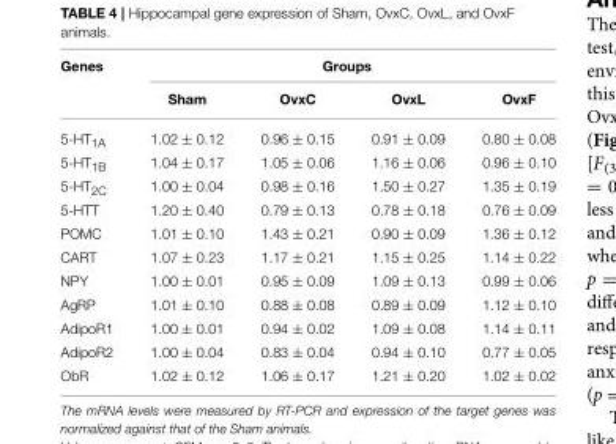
<table><thead><tr><td rowspan="2">Genes</td><td colspan="4">Groups</td></tr><tr><td>Sham</td><td>OvxC</td><td>OvxL</td><td>OvxF</td></tr></thead><tbody><tr><td>5-HT<sub>1A</sub></td><td>1.02 ± 0.12</td><td>0.96 ± 0.15</td><td>0.91 ± 0.09</td><td>0.80 ± 0.08</td></tr><tr><td>5-HT<sub>1B</sub></td><td>1.04 ± 0.17</td><td>1.05 ± 0.06</td><td>1.16 ± 0.06</td><td>0.96 ± 0.10</td></tr><tr><td>5-HT<sub>2C</sub></td><td>1.00 ± 0.04</td><td>0.98 ± 0.16</td><td>1.50 ± 0.27</td><td>1.35 ± 0.19</td></tr><tr><td>5-HTT</td><td>1.20 ± 0.40</td><td>0.79 ± 0.13</td><td>0.78 ± 0.18</td><td>0.76 ± 0.09</td></tr><tr><td>POMC</td><td>1.01 ± 0.10</td><td>1.43 ± 0.21</td><td>0.90 ± 0.09</td><td>1.36 ± 0.12</td></tr><tr><td>CART</td><td>1.07 ± 0.23</td><td>1.17 ± 0.21</td><td>1.15 ± 0.25</td><td>1.14 ± 0.22</td></tr><tr><td>NPY</td><td>1.00 ± 0.01</td><td>0.95 ± 0.09</td><td>1.09 ± 0.13</td><td>0.99 ± 0.06</td></tr><tr><td>AgRP</td><td>1.01 ± 0.10</td><td>0.88 ± 0.08</td><td>0.89 ± 0.09</td><td>1.12 ± 0.10</td></tr><tr><td>AdipoR1</td><td>1.00 ± 0.01</td><td>0.94 ± 0.02</td><td>1.09 ± 0.08</td><td>1.14 ± 0.11</td></tr><tr><td>AdipoR2</td><td>1.00 ± 0.04</td><td>0.83 ± 0.04</td><td>0.94 ± 0.10</td><td>0.77 ± 0.05</td></tr><tr><td>ObR</td><td>1.02 ± 0.12</td><td>1.06 ± 0.17</td><td>1.21 ± 0.20</td><td>1.02 ± 0.02</td></tr></tbody></table>